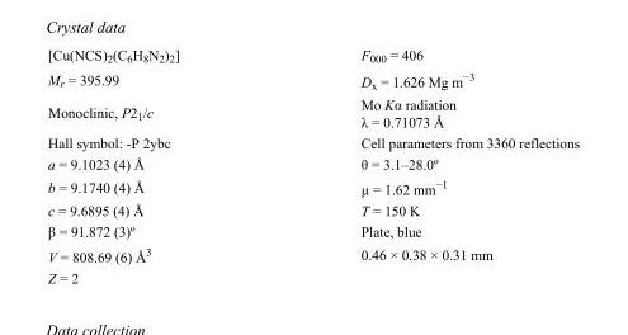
<table><tbody><tr><td>[Cu(NCS)<sub>2</sub>(C<sub>6</sub>H<sub>8</sub>N<sub>2</sub>)<sub>2</sub>]</td><td>F000 = 406</td></tr><tr><td>M<sub>r</sub> = 395.99</td><td>D<sub>x</sub> = 1.626 Mg m<sup>−3</sup></td></tr><tr><td>Monoclinic, P2<sub>1</sub>/c</td><td>Mo Kα radiation λ = 0.71073 Å</td></tr><tr><td>Hall symbol: -P 2ybc</td><td>Cell parameters from 3360 reflections</td></tr><tr><td>a = 9.1023 (4) Å</td><td>θ = 3.1–28.0º</td></tr><tr><td>b = 9.1740 (4) Å</td><td>µ = 1.62 mm<sup>−1</sup></td></tr><tr><td>c = 9.6895 (4) Å</td><td>T = 150 K</td></tr><tr><td>β = 91.872 (3)º</td><td>Plate, blue</td></tr><tr><td>V = 808.69 (6) Å<sup>3</sup></td><td>0.46 × 0.38 × 0.31 mm</td></tr><tr><td>Z = 2</td><td></td></tr></tbody></table>